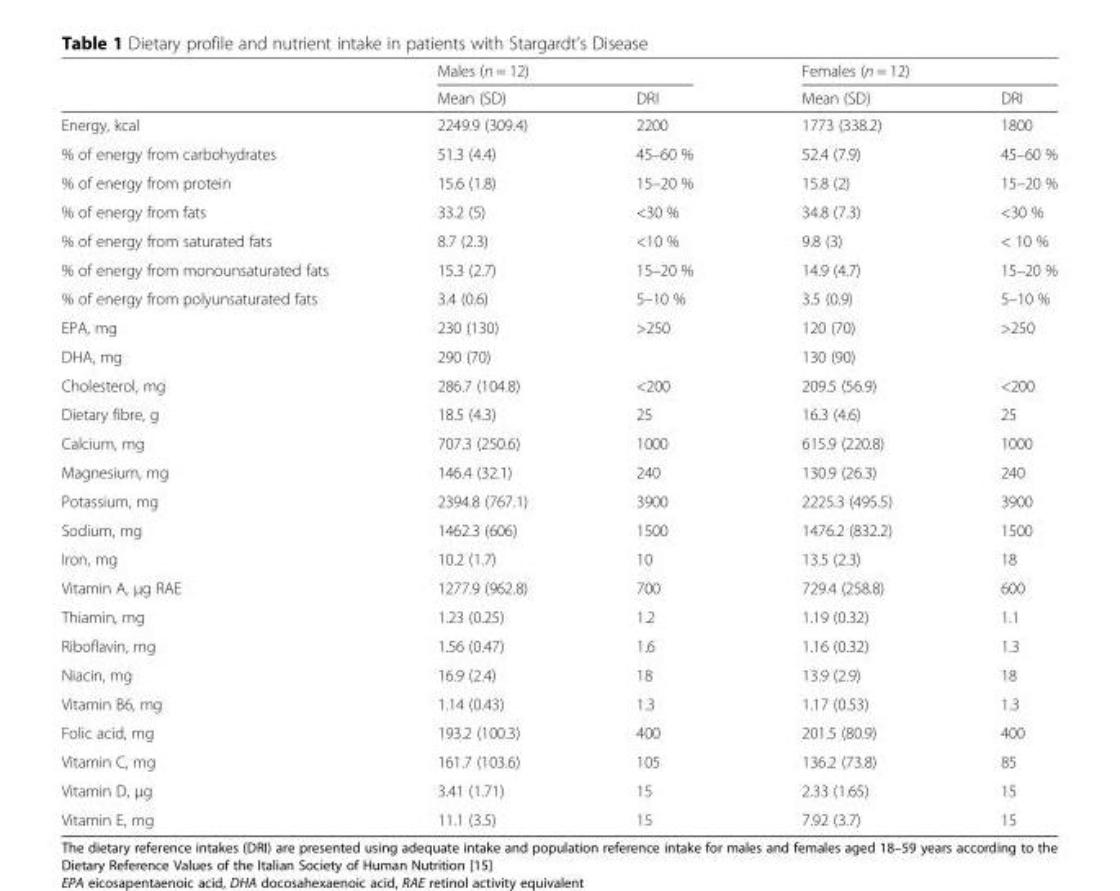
<table><thead><tr><td rowspan="2"></td><td colspan="2">Males (n = 12)</td><td colspan="2">Females (n = 12)</td></tr><tr><td>Mean (SD)</td><td>DRI</td><td>Mean (SD)</td><td>DRI</td></tr></thead><tbody><tr><td>Energy, kcal</td><td>2249.9 (309.4)</td><td>2200</td><td>1773 (338.2)</td><td>1800</td></tr><tr><td>% of energy from carbohydrates</td><td>51.3 (4.4)</td><td>45–60 %</td><td>52.4 (7.9)</td><td>45–60 %</td></tr><tr><td>% of energy from protein</td><td>15.6 (1.8)</td><td>15–20 %</td><td>15.8 (2)</td><td>15–20 %</td></tr><tr><td>% of energy from fats</td><td>33.2 (5)</td><td>&lt;30 %</td><td>34.8 (7.3)</td><td>&lt;30 %</td></tr><tr><td>% of energy from saturated fats</td><td>8.7 (2.3)</td><td>&lt;10 %</td><td>9.8 (3)</td><td>&lt; 10 %</td></tr><tr><td>% of energy from monounsaturated fats</td><td>15.3 (2.7)</td><td>15–20 %</td><td>14.9 (4.7)</td><td>15–20 %</td></tr><tr><td>% of energy from polyunsaturated fats</td><td>3.4 (0.6)</td><td>5–10 %</td><td>3.5 (0.9)</td><td>5–10 %</td></tr><tr><td>EPA, mg</td><td>230 (130)</td><td rowspan="2">&gt;250</td><td>120 (70)</td><td rowspan="2">&gt;250</td></tr><tr><td>DHA, mg</td><td>290 (70)</td><td>130 (90)</td></tr><tr><td>Cholesterol, mg</td><td>286.7 (104.8)</td><td>&lt;200</td><td>209.5 (56.9)</td><td>&lt;200</td></tr><tr><td>Dietary fibre, g</td><td>18.5 (4.3)</td><td>25</td><td>16.3 (4.6)</td><td>25</td></tr><tr><td>Calcium, mg</td><td>707.3 (250.6)</td><td>1000</td><td>615.9 (220.8)</td><td>1000</td></tr><tr><td>Magnesium, mg</td><td>146.4 (32.1)</td><td>240</td><td>130.9 (26.3)</td><td>240</td></tr><tr><td>Potassium, mg</td><td>2394.8 (767.1)</td><td>3900</td><td>2225.3 (495.5)</td><td>3900</td></tr><tr><td>Sodium, mg</td><td>1462.3 (606)</td><td>1500</td><td>1476.2 (832.2)</td><td>1500</td></tr><tr><td>Iron, mg</td><td>10.2 (1.7)</td><td>10</td><td>13.5 (2.3)</td><td>18</td></tr><tr><td>Vitamin A, μg RAE</td><td>1277.9 (962.8)</td><td>700</td><td>729.4 (258.8)</td><td>600</td></tr><tr><td>Thiamin, mg</td><td>1.23 (0.25)</td><td>1.2</td><td>1.19 (0.32)</td><td>1.1</td></tr><tr><td>Riboflavin, mg</td><td>1.56 (0.47)</td><td>1.6</td><td>1.16 (0.32)</td><td>1.3</td></tr><tr><td>Niacin, mg</td><td>16.9 (2.4)</td><td>18</td><td>13.9 (2.9)</td><td>18</td></tr><tr><td>Vitamin B6, mg</td><td>1.14 (0.43)</td><td>1.3</td><td>1.17 (0.53)</td><td>1.3</td></tr><tr><td>Folic acid, mg</td><td>193.2 (100.3)</td><td>400</td><td>201.5 (80.9)</td><td>400</td></tr><tr><td>Vitamin C, mg</td><td>161.7 (103.6)</td><td>105</td><td>136.2 (73.8)</td><td>85</td></tr><tr><td>Vitamin D, μg</td><td>3.41 (1.71)</td><td>15</td><td>2.33 (1.65)</td><td>15</td></tr><tr><td>Vitamin E, mg</td><td>11.1 (3.5)</td><td>15</td><td>7.92 (3.7)</td><td>15</td></tr></tbody></table>